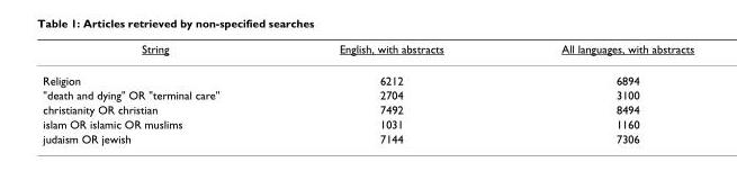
<table><thead><tr><td>String</td><td>English, with abstracts</td><td>All languages, with abstracts</td></tr></thead><tbody><tr><td>Religion</td><td>6212</td><td>6894</td></tr><tr><td>&quot;death and dying&quot; OR &quot;terminal care&quot;</td><td>2704</td><td>3100</td></tr><tr><td>christianity OR christian</td><td>7492</td><td>8494</td></tr><tr><td>islam OR islamic OR muslims</td><td>1031</td><td>1160</td></tr><tr><td>judaism OR jewish</td><td>7144</td><td>7306</td></tr></tbody></table>